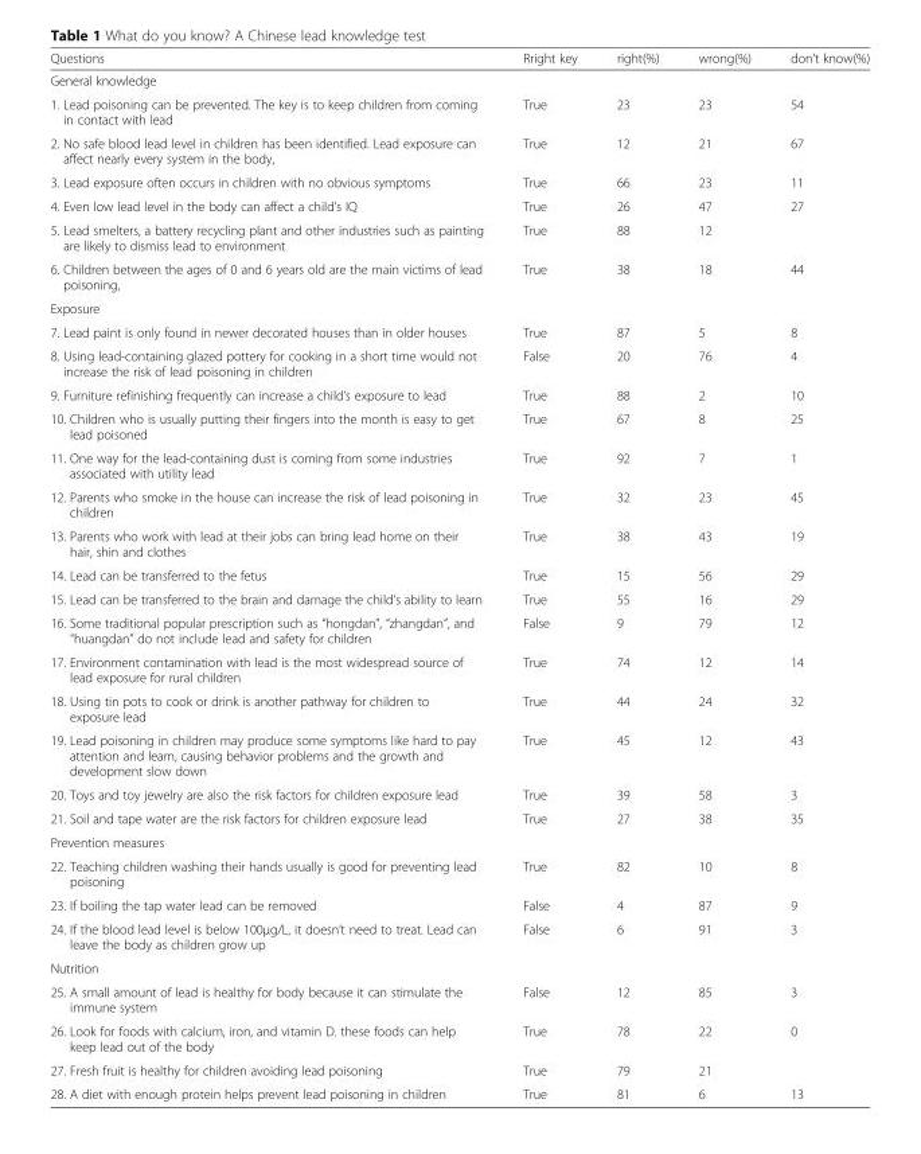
<table><thead><tr><td>Questions</td><td>Rright key</td><td>right(%)</td><td>wrong(%)</td><td>don&#x27;t know(%)</td></tr></thead><tbody><tr><td colspan="5">General knowledge</td></tr><tr><td>1. Lead poisoning can be prevented. The key is to keep children from coming in contact with lead</td><td>True</td><td>23</td><td>23</td><td>54</td></tr><tr><td>2. No safe blood lead level in children has been identified. Lead exposure can affect nearly every system in the body,</td><td>True</td><td>12</td><td>21</td><td>67</td></tr><tr><td>3. Lead exposure often occurs in children with no obvious symptoms</td><td>True</td><td>66</td><td>23</td><td>11</td></tr><tr><td>4. Even low lead level in the body can affect a child’s IQ</td><td>True</td><td>26</td><td>47</td><td>27</td></tr><tr><td>5. Lead smelters, a battery recycling plant and other industries such as painting are likely to dismiss lead to environment</td><td>True</td><td>88</td><td>12</td><td></td></tr><tr><td>6. Children between the ages of 0 and 6 years old are the main victims of lead poisoning,</td><td>True</td><td>38</td><td>18</td><td>44</td></tr><tr><td colspan="5">Exposure</td></tr><tr><td>7. Lead paint is only found in newer decorated houses than in older houses</td><td>True</td><td>87</td><td>5</td><td>8</td></tr><tr><td>8. Using lead-containing glazed pottery for cooking in a short time would not increase the risk of lead poisoning in children</td><td>False</td><td>20</td><td>76</td><td>4</td></tr><tr><td>9. Furniture refinishing frequently can increase a child’s exposure to lead</td><td>True</td><td>88</td><td>2</td><td>10</td></tr><tr><td>10. Children who is usually putting their fingers into the month is easy to get lead poisoned</td><td>True</td><td>67</td><td>8</td><td>25</td></tr><tr><td>11. One way for the lead-containing dust is coming from some industries associated with utility lead</td><td>True</td><td>92</td><td>7</td><td>1</td></tr><tr><td>12. Parents who smoke in the house can increase the risk of lead poisoning in children</td><td>True</td><td>32</td><td>23</td><td>45</td></tr><tr><td>13. Parents who work with lead at their jobs can bring lead home on their hair, shin and clothes</td><td>True</td><td>38</td><td>43</td><td>19</td></tr><tr><td>14. Lead can be transferred to the fetus</td><td>True</td><td>15</td><td>56</td><td>29</td></tr><tr><td>15. Lead can be transferred to the brain and damage the child’s ability to learn</td><td>True</td><td>55</td><td>16</td><td>29</td></tr><tr><td>16. Some traditional popular prescription such as “hongdan”, “zhangdan”, and “huangdan” do not include lead and safety for children</td><td>False</td><td>9</td><td>79</td><td>12</td></tr><tr><td>17. Environment contamination with lead is the most widespread source of lead exposure for rural children</td><td>True</td><td>74</td><td>12</td><td>14</td></tr><tr><td>18. Using tin pots to cook or drink is another pathway for children to exposure lead</td><td>True</td><td>44</td><td>24</td><td>32</td></tr><tr><td>19. Lead poisoning in children may produce some symptoms like hard to pay attention and learn, causing behavior problems and the growth and development slow down</td><td>True</td><td>45</td><td>12</td><td>43</td></tr><tr><td>20. Toys and toy jewelry are also the risk factors for children exposure lead</td><td>True</td><td>39</td><td>58</td><td>3</td></tr><tr><td>21. Soil and tape water are the risk factors for children exposure lead</td><td>True</td><td>27</td><td>38</td><td>35</td></tr><tr><td colspan="5">Prevention measures</td></tr><tr><td>22. Teaching children washing their hands usually is good for preventing lead poisoning</td><td>True</td><td>82</td><td>10</td><td>8</td></tr><tr><td>23. If boiling the tap water lead can be removed</td><td>False</td><td>4</td><td>87</td><td>9</td></tr><tr><td>24. If the blood lead level is below 100μg/L, it doesn’t need to treat. Lead can leave the body as children grow up</td><td>False</td><td>6</td><td>91</td><td>3</td></tr><tr><td colspan="5">Nutrition</td></tr><tr><td>25. A small amount of lead is healthy for body because it can stimulate the immune system</td><td>False</td><td>12</td><td>85</td><td>3</td></tr><tr><td>26. Look for foods with calcium, iron, and vitamin D. these foods can help keep lead out of the body</td><td>True</td><td>78</td><td>22</td><td>0</td></tr><tr><td>27. Fresh fruit is healthy for children avoiding lead poisoning</td><td>True</td><td>79</td><td>21</td><td></td></tr><tr><td>28. A diet with enough protein helps prevent lead poisoning in children</td><td>True</td><td>81</td><td>6</td><td>13</td></tr></tbody></table>